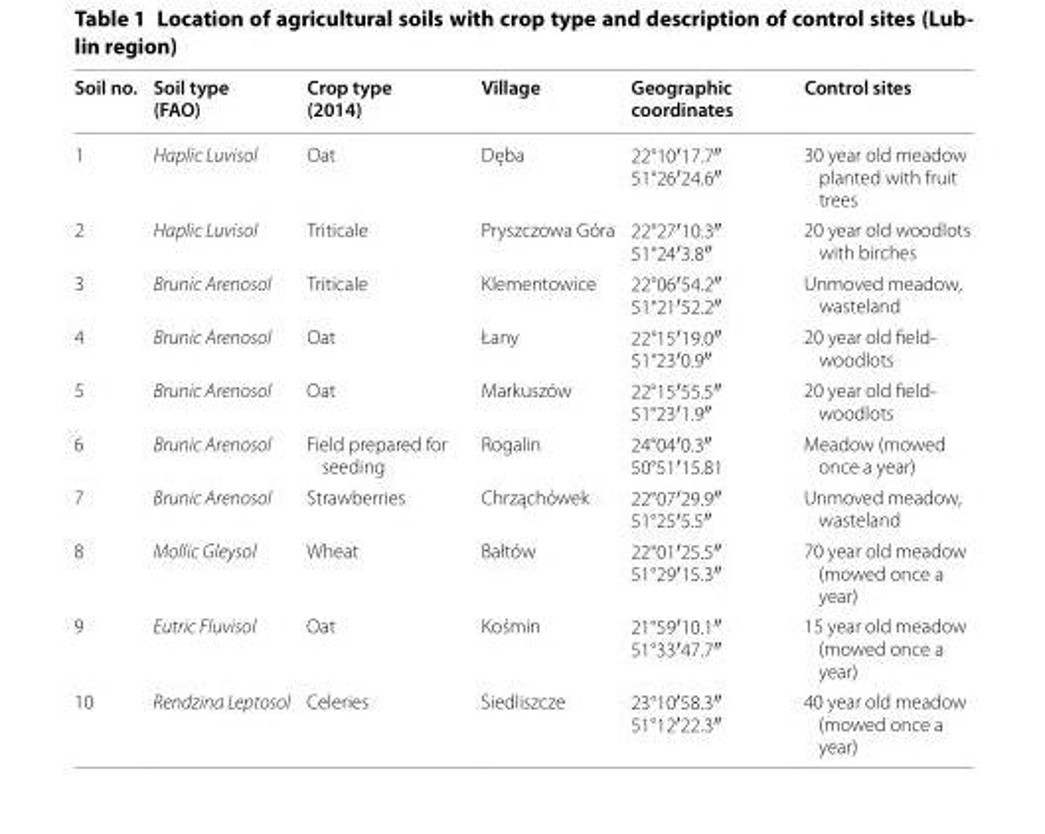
<table><thead><tr><td>Soil no.</td><td>Soil type (FAO)</td><td>Crop type (2014)</td><td>Village</td><td>Geographic coordinates</td><td>Control sites</td></tr></thead><tbody><tr><td>1</td><td>Haplic Luvisol</td><td>Oat</td><td>Dęba</td><td>22°10′17.7″ 51°26′24.6″</td><td>30 year old meadow planted with fruit trees</td></tr><tr><td>2</td><td>Haplic Luvisol</td><td>Triticale</td><td>Pryszczowa Góra</td><td>22°27′10.3″ 51°24′3.8″</td><td>20 year old woodlots with birches</td></tr><tr><td>3</td><td>Brunic Arenosol</td><td>Triticale</td><td>Klementowice</td><td>22°06′54.2″ 51°21′52.2″</td><td>Unmoved meadow, wasteland</td></tr><tr><td>4</td><td>Brunic Arenosol</td><td>Oat</td><td>Łany</td><td>22°15′19.0″ 51°23′0.9″</td><td>20 year old field‑ woodlots</td></tr><tr><td>5</td><td>Brunic Arenosol</td><td>Oat</td><td>Markuszów</td><td>22°15′55.5″ 51°23′1.9″</td><td>20 year old field‑ woodlots</td></tr><tr><td>6</td><td>Brunic Arenosol</td><td>Field prepared for seeding</td><td>Rogalin</td><td>24°04′0.3″ 50°51′15.81</td><td>Meadow (mowed once a year)</td></tr><tr><td>7</td><td>Brunic Arenosol</td><td>Strawberries</td><td>Chrząchówek</td><td>22°07′29.9″ 51°25′5.5″</td><td>Unmoved meadow, wasteland</td></tr><tr><td>8</td><td>Mollic Gleysol</td><td>Wheat</td><td>Bałtów</td><td>22°01′25.5″ 51°29′15.3″</td><td>70 year old meadow (mowed once a year)</td></tr><tr><td>9</td><td>Eutric Fluvisol</td><td>Oat</td><td>Kośmin</td><td>21°59′10.1″ 51°33′47.7″</td><td>15 year old meadow (mowed once a year)</td></tr><tr><td>10</td><td>Rendzina Leptosol</td><td>Celeries</td><td>Siedliszcze</td><td>23°10′58.3″ 51°12′22.3″</td><td>40 year old meadow (mowed once a year)</td></tr></tbody></table>